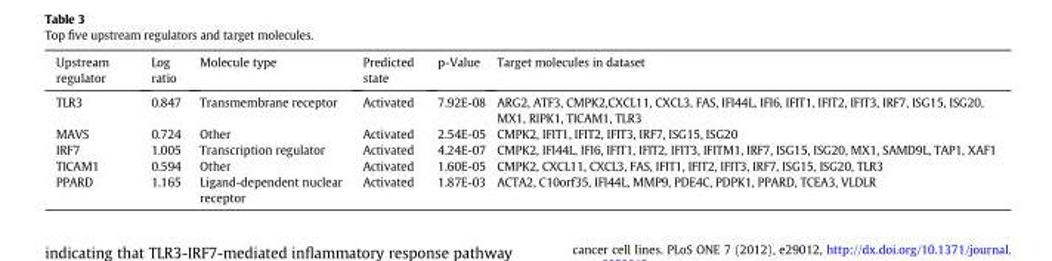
<table><thead><tr><td>Upstream regulator</td><td>Log ratio</td><td>Molecule type</td><td>Predicted state</td><td>p-Value</td><td>Target molecules in dataset</td></tr></thead><tbody><tr><td>TLR3</td><td>0.847</td><td>Transmembrane receptor</td><td>Activated</td><td>7.92E-08</td><td>ARG2, ATF3, CMPK2,CXCL11, CXCL3, FAS, IFI44L, IFI6, IFIT1, IFIT2, IFIT3, IRF7, ISG15, ISG20, MX1, RIPK1, TICAM1, TLR3</td></tr><tr><td>MAVS</td><td>0.724</td><td>Other</td><td>Activated</td><td>2.54E-05</td><td>CMPK2, IFIT1, IFIT2, IFIT3, IRF7, ISG15, ISG20</td></tr><tr><td>IRF7</td><td>1.005</td><td>Transcription regulator</td><td>Activated</td><td>4.24E-07</td><td>CMPK2, IFI44L, IFI6, IFIT1, IFIT2, IFIT3, IFITM1, IRF7, ISG15, ISG20, MX1, SAMD9L, TAP1, XAF1</td></tr><tr><td>TICAM1</td><td>0.594</td><td>Other</td><td>Activated</td><td>1.60E-05</td><td>CMPK2, CXCL11, CXCL3, FAS, IFIT1, IFIT2, IFIT3, IRF7, ISG15, ISG20, TLR3</td></tr><tr><td>PPARD</td><td>1.165</td><td>Ligand-dependent nuclear receptor</td><td>Activated</td><td>1.87E-03</td><td>ACTA2, C10orf35, IFI44L, MMP9, PDE4C, PDPK1, PPARD, TCEA3, VLDLR</td></tr></tbody></table>